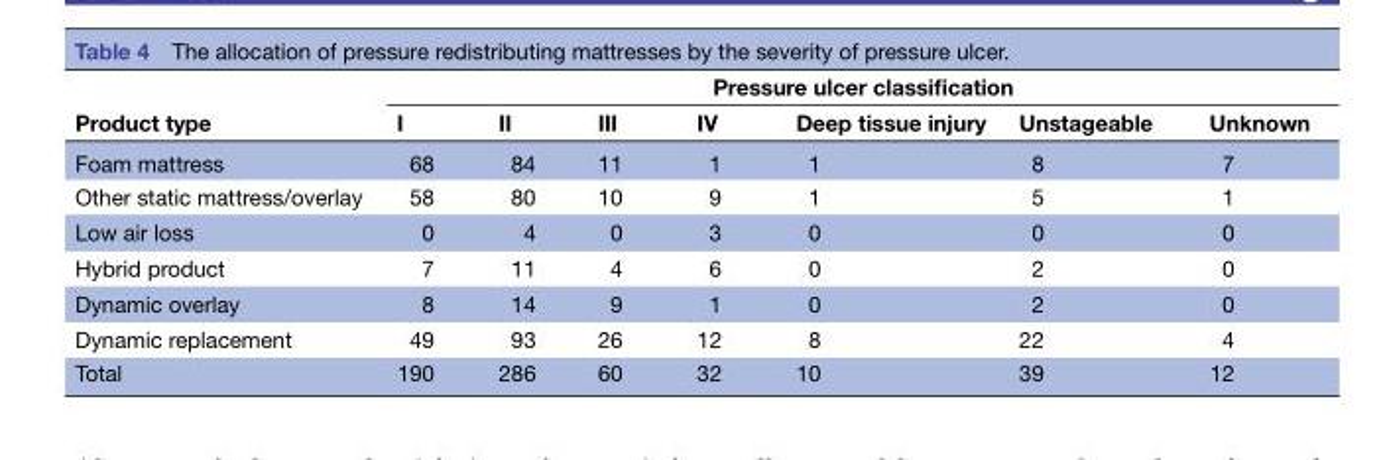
<table><thead><tr><td rowspan="2">Product type</td><td colspan="7">Pressure ulcer classification</td></tr><tr><td>I</td><td>II</td><td>III</td><td>IV</td><td>Deep tissue injury</td><td>Unstageable</td><td>Unknown</td></tr></thead><tbody><tr><td>Foam mattress</td><td>68</td><td>84</td><td>11</td><td>1</td><td>1</td><td>8</td><td>7</td></tr><tr><td>Other static mattress/overlay</td><td>58</td><td>80</td><td>10</td><td>9</td><td>1</td><td>5</td><td>1</td></tr><tr><td>Low air loss</td><td>0</td><td>4</td><td>0</td><td>3</td><td>0</td><td>0</td><td>0</td></tr><tr><td>Hybrid product</td><td>7</td><td>11</td><td>4</td><td>6</td><td>0</td><td>2</td><td>0</td></tr><tr><td>Dynamic overlay</td><td>8</td><td>14</td><td>9</td><td>1</td><td>0</td><td>2</td><td>0</td></tr><tr><td>Dynamic replacement</td><td>49</td><td>93</td><td>26</td><td>12</td><td>8</td><td>22</td><td>4</td></tr><tr><td>Total</td><td>190</td><td>286</td><td>60</td><td>32</td><td>10</td><td>39</td><td>12</td></tr></tbody></table>